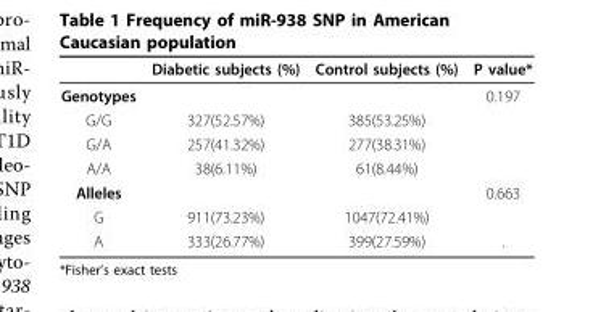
<table><thead><tr><td></td><td>Diabetic subjects (%)</td><td>Control subjects (%)</td><td>P value*</td></tr></thead><tbody><tr><td>Genotypes</td><td></td><td></td><td>0.197</td></tr><tr><td>G/G</td><td>327(52.57%)</td><td>385(53.25%)</td><td></td></tr><tr><td>G/A</td><td>257(41.32%)</td><td>277(38.31%)</td><td></td></tr><tr><td>A/A</td><td>38(6.11%)</td><td>61(8.44%)</td><td></td></tr><tr><td>Alleles</td><td></td><td></td><td>0.663</td></tr><tr><td>G</td><td>911(73.23%)</td><td>1047(72.41%)</td><td></td></tr><tr><td>A</td><td>333(26.77%)</td><td>399(27.59%)</td><td>.</td></tr></tbody></table>